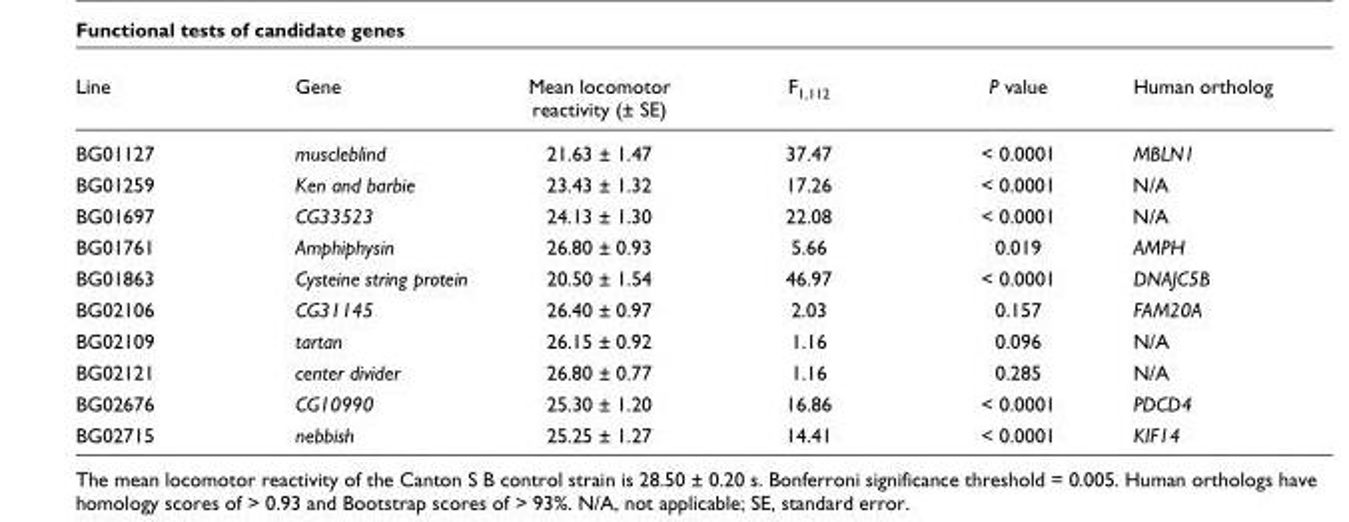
<table><thead><tr><td>Line</td><td>Gene</td><td>Mean locomotor reactivity (± SE)</td><td>F<sub>1,112</sub></td><td>P value</td><td>Human ortholog</td></tr></thead><tbody><tr><td>BG01127</td><td>muscleblind</td><td>21.63 ± 1.47</td><td>37.47</td><td>&lt; 0.0001</td><td>MBLN1</td></tr><tr><td>BG01259</td><td>Ken and barbie</td><td>23.43 ± 1.32</td><td>17.26</td><td>&lt; 0.0001</td><td>N/A</td></tr><tr><td>BG01697</td><td>CG33523</td><td>24.13 ± 1.30</td><td>22.08</td><td>&lt; 0.0001</td><td>N/A</td></tr><tr><td>BG01761</td><td>Amphiphysin</td><td>26.80 ± 0.93</td><td>5.66</td><td>0.019</td><td>AMPH</td></tr><tr><td>BG01863</td><td>Cysteine string protein</td><td>20.50 ± 1.54</td><td>46.97</td><td>&lt; 0.0001</td><td>DNAJC5B</td></tr><tr><td>BG02106</td><td>CG31145</td><td>26.40 ± 0.97</td><td>2.03</td><td>0.157</td><td>FAM20A</td></tr><tr><td>BG02109</td><td>tartan</td><td>26.15 ± 0.92</td><td>1.16</td><td>0.096</td><td>N/A</td></tr><tr><td>BG02121</td><td>center divider</td><td>26.80 ± 0.77</td><td>1.16</td><td>0.285</td><td>N/A</td></tr><tr><td>BG02676</td><td>CG10990</td><td>25.30 ± 1.20</td><td>16.86</td><td>&lt; 0.0001</td><td>PDCD4</td></tr><tr><td>BG02715</td><td>nebbish</td><td>25.25 ± 1.27</td><td>14.41</td><td>&lt; 0.0001</td><td>KIF14</td></tr></tbody></table>